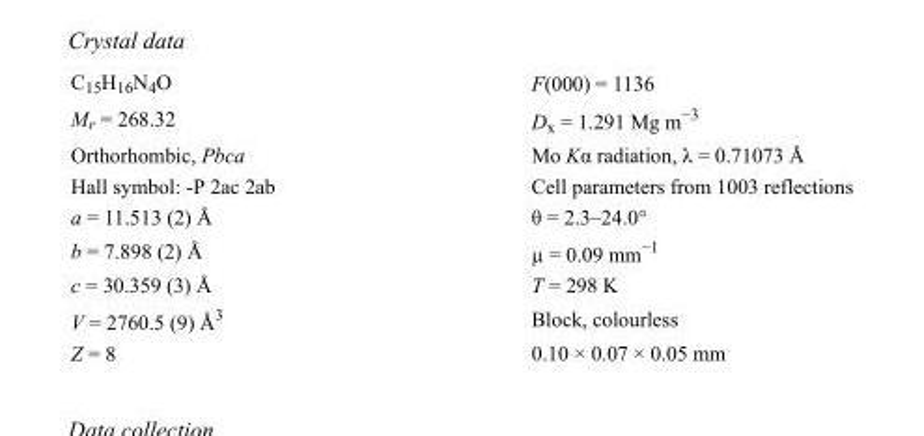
<table><tbody><tr><td>C<sub>15</sub>H<sub>16</sub>N<sub>4</sub>O</td><td>F(000) = 1136</td></tr><tr><td>M<sub>r</sub> = 268.32</td><td>D<sub>x</sub> = 1.291 Mg m<sup>−3</sup></td></tr><tr><td>Orthorhombic, Pbca</td><td>Mo Kα radiation, λ = 0.71073 Å</td></tr><tr><td>Hall symbol: -P 2ac 2ab</td><td>Cell parameters from 1003 reflections</td></tr><tr><td>a = 11.513 (2) Å</td><td>θ = 2.3–24.0°</td></tr><tr><td>b = 7.898 (2) Å</td><td>µ = 0.09 mm<sup>−1</sup></td></tr><tr><td>c = 30.359 (3) Å</td><td>T = 298 K</td></tr><tr><td>V = 2760.5 (9) Å<sup>3</sup></td><td>Block, colourless</td></tr><tr><td>Z = 8</td><td>0.10 × 0.07 × 0.05 mm</td></tr></tbody></table>